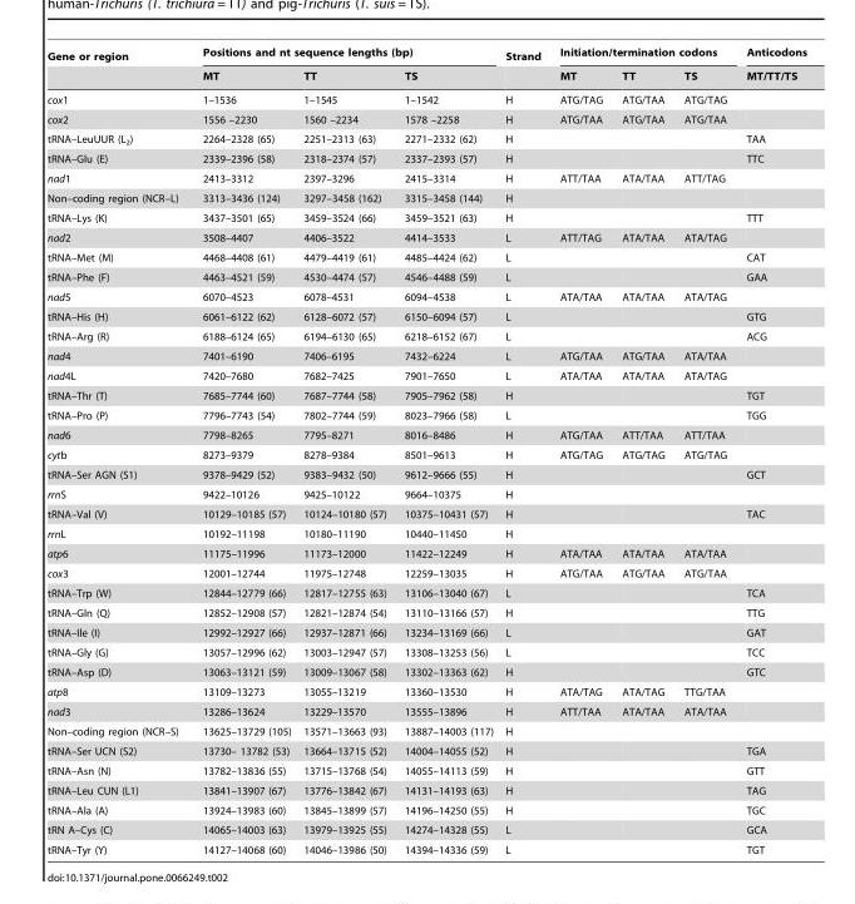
<table><thead><tr><td rowspan="2">Gene or region</td><td colspan="3">Positions and nt sequence lengths (bp)</td><td rowspan="2">Strand</td><td colspan="3">Initiation/termination codons</td><td rowspan="2">Anticodons MT/TT/TS</td></tr><tr><td>MT</td><td>TT</td><td>TS</td><td>MT</td><td>TT</td><td>TS</td></tr></thead><tbody><tr><td>cox1</td><td>1–1536</td><td>1–1545</td><td>1–1542</td><td>H</td><td>ATG/TAG</td><td>ATG/TAA</td><td>ATG/TAG</td><td></td></tr><tr><td>cox2</td><td>1556 –2230</td><td>1560 –2234</td><td>1578 –2258</td><td>H</td><td>ATG/TAA</td><td>ATG/TAA</td><td>ATG/TAA</td><td></td></tr><tr><td>tRNA–LeuUUR (L<sub>2</sub>)</td><td>2264–2328 (65)</td><td>2251–2313 (63)</td><td>2271–2332 (62)</td><td>H</td><td></td><td></td><td></td><td>TAA</td></tr><tr><td>tRNA–Glu (E)</td><td>2339–2396 (58)</td><td>2318–2374 (57)</td><td>2337–2393 (57)</td><td>H</td><td></td><td></td><td></td><td>TTC</td></tr><tr><td>nad1</td><td>2413–3312</td><td>2397–3296</td><td>2415–3314</td><td>H</td><td>ATT/TAA</td><td>ATA/TAA</td><td>ATT/TAG</td><td></td></tr><tr><td>Non–coding region (NCR–L)</td><td>3313–3436 (124)</td><td>3297–3458 (162)</td><td>3315–3458 (144)</td><td>H</td><td></td><td></td><td></td><td></td></tr><tr><td>tRNA–Lys (K)</td><td>3437–3501 (65)</td><td>3459–3524 (66)</td><td>3459–3521 (63)</td><td>H</td><td></td><td></td><td></td><td>TTT</td></tr><tr><td>nad2</td><td>3508–4407</td><td>4406–3522</td><td>4414–3533</td><td>L</td><td>ATT/TAG</td><td>ATA/TAA</td><td>ATA/TAG</td><td></td></tr><tr><td>tRNA–Met (M)</td><td>4468–4408 (61)</td><td>4479–4419 (61)</td><td>4485–4424 (62)</td><td>L</td><td></td><td></td><td></td><td>CAT</td></tr><tr><td>tRNA–Phe (F)</td><td>4463–4521 (59)</td><td>4530–4474 (57)</td><td>4546–4488 (59)</td><td>L</td><td></td><td></td><td></td><td>GAA</td></tr><tr><td>nad5</td><td>6070–4523</td><td>6078–4531</td><td>6094–4538</td><td>L</td><td>ATA/TAA</td><td>ATA/TAA</td><td>ATA/TAG</td><td></td></tr><tr><td>tRNA–His (H)</td><td>6061–6122 (62)</td><td>6128–6072 (57)</td><td>6150–6094 (57)</td><td>L</td><td></td><td></td><td></td><td>GTG</td></tr><tr><td>tRNA–Arg (R)</td><td>6188–6124 (65)</td><td>6194–6130 (65)</td><td>6218–6152 (67)</td><td>L</td><td></td><td></td><td></td><td>ACG</td></tr><tr><td>nad4</td><td>7401–6190</td><td>7406–6195</td><td>7432–6224</td><td>L</td><td>ATG/TAA</td><td>ATG/TAA</td><td>ATA/TAA</td><td></td></tr><tr><td>nad4L</td><td>7420–7680</td><td>7682–7425</td><td>7901–7650</td><td>L</td><td>ATA/TAA</td><td>ATA/TAA</td><td>ATA/TAG</td><td></td></tr><tr><td>tRNA–Thr (T)</td><td>7685–7744 (60)</td><td>7687–7744 (58)</td><td>7905–7962 (58)</td><td>H</td><td></td><td></td><td></td><td>TGT</td></tr><tr><td>tRNA–Pro (P)</td><td>7796–7743 (54)</td><td>7802–7744 (59)</td><td>8023–7966 (58)</td><td>L</td><td></td><td></td><td></td><td>TGG</td></tr><tr><td>nad6</td><td>7798–8265</td><td>7795–8271</td><td>8016–8486</td><td>H</td><td>ATG/TAA</td><td>ATT/TAA</td><td>ATT/TAA</td><td></td></tr><tr><td>cytb</td><td>8273–9379</td><td>8278–9384</td><td>8501–9613</td><td>H</td><td>ATG/TAG</td><td>ATG/TAG</td><td>ATG/TAG</td><td></td></tr><tr><td>tRNA–Ser AGN (S1)</td><td>9378–9429 (52)</td><td>9383–9432 (50)</td><td>9612–9666 (55)</td><td>H</td><td></td><td></td><td></td><td>GCT</td></tr><tr><td>rrnS</td><td>9422–10126</td><td>9425–10122</td><td>9664–10375</td><td>H</td><td></td><td></td><td></td><td></td></tr><tr><td>tRNA–Val (V)</td><td>10129–10185 (57)</td><td>10124–10180 (57)</td><td>10375–10431 (57)</td><td>H</td><td></td><td></td><td></td><td>TAC</td></tr><tr><td>rrnL</td><td>10192–11198</td><td>10180–11190</td><td>10440–11450</td><td>H</td><td></td><td></td><td></td><td></td></tr><tr><td>atp6</td><td>11175–11996</td><td>11173–12000</td><td>11422–12249</td><td>H</td><td>ATA/TAA</td><td>ATA/TAA</td><td>ATA/TAA</td><td></td></tr><tr><td>cox3</td><td>12001–12744</td><td>11975–12748</td><td>12259–13035</td><td>H</td><td>ATG/TAA</td><td>ATG/TAA</td><td>ATG/TAA</td><td></td></tr><tr><td>tRNA–Trp (W)</td><td>12844–12779 (66)</td><td>12817–12755 (63)</td><td>13106–13040 (67)</td><td>L</td><td></td><td></td><td></td><td>TCA</td></tr><tr><td>tRNA–Gln (Q)</td><td>12852–12908 (57)</td><td>12821–12874 (54)</td><td>13110–13166 (57)</td><td>H</td><td></td><td></td><td></td><td>TTG</td></tr><tr><td>tRNA–Ile (I)</td><td>12992–12927 (66)</td><td>12937–12871 (66)</td><td>13234–13169 (66)</td><td>L</td><td></td><td></td><td></td><td>GAT</td></tr><tr><td>tRNA–Gly (G)</td><td>13057–12996 (62)</td><td>13003–12947 (57)</td><td>13308–13253 (56)</td><td>L</td><td></td><td></td><td></td><td>TCC</td></tr><tr><td>tRNA–Asp (D)</td><td>13063–13121 (59)</td><td>13009–13067 (58)</td><td>13302–13363 (62)</td><td>H</td><td></td><td></td><td></td><td>GTC</td></tr><tr><td>atp8</td><td>13109–13273</td><td>13055–13219</td><td>13360–13530</td><td>H</td><td>ATA/TAG</td><td>ATA/TAG</td><td>TTG/TAA</td><td></td></tr><tr><td>nad3</td><td>13286–13624</td><td>13229–13570</td><td>13555–13896</td><td>H</td><td>ATT/TAA</td><td>ATA/TAA</td><td>ATA/TAA</td><td></td></tr><tr><td>Non–coding region (NCR–S)</td><td>13625–13729 (105)</td><td>13571–13663 (93)</td><td>13887–14003 (117)</td><td>H</td><td></td><td></td><td></td><td></td></tr><tr><td>tRNA–Ser UCN (S2)</td><td>13730– 13782 (53)</td><td>13664–13715 (52)</td><td>14004–14055 (52)</td><td>H</td><td></td><td></td><td></td><td>TGA</td></tr><tr><td>tRNA–Asn (N)</td><td>13782–13836 (55)</td><td>13715–13768 (54)</td><td>14055–14113 (59)</td><td>H</td><td></td><td></td><td></td><td>GTT</td></tr><tr><td>tRNA–Leu CUN (L1)</td><td>13841–13907 (67)</td><td>13776–13842 (67)</td><td>14131–14193 (63)</td><td>H</td><td></td><td></td><td></td><td>TAG</td></tr><tr><td>tRNA–Ala (A)</td><td>13924–13983 (60)</td><td>13845–13899 (57)</td><td>14196–14250 (55)</td><td>H</td><td></td><td></td><td></td><td>TGC</td></tr><tr><td>tRN A–Cys (C)</td><td>14065–14003 (63)</td><td>13979–13925 (55)</td><td>14274–14328 (55)</td><td>L</td><td></td><td></td><td></td><td>GCA</td></tr><tr><td>tRNA–Tyr (Y)</td><td>14127–14068 (60)</td><td>14046–13986 (50)</td><td>14394–14336 (59)</td><td>L</td><td></td><td></td><td></td><td>TGT</td></tr></tbody></table>